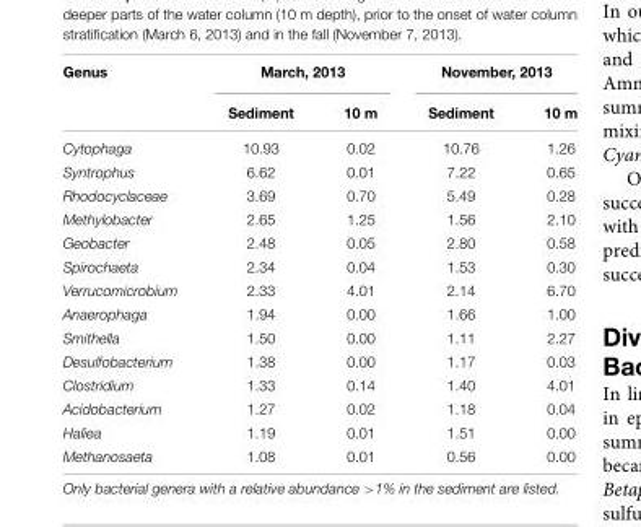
<table><thead><tr><td rowspan="2">Genus</td><td colspan="2">March, 2013</td><td colspan="2">November, 2013</td></tr><tr><td>Sediment</td><td>10 m</td><td>Sediment</td><td>10 m</td></tr></thead><tbody><tr><td>Cytophaga</td><td>10.93</td><td>0.02</td><td>10.76</td><td>1.26</td></tr><tr><td>Syntrophus</td><td>6.62</td><td>0.01</td><td>7.22</td><td>0.65</td></tr><tr><td>Rhodocyclaceae</td><td>3.69</td><td>0.70</td><td>5.49</td><td>0.28</td></tr><tr><td>Methylobacter</td><td>2.65</td><td>1.25</td><td>1.56</td><td>2.10</td></tr><tr><td>Geobacter</td><td>2.48</td><td>0.05</td><td>2.80</td><td>0.58</td></tr><tr><td>Spirochaeta</td><td>2.34</td><td>0.04</td><td>1.53</td><td>0.30</td></tr><tr><td>Verrucomicrobium</td><td>2.33</td><td>4.01</td><td>2.14</td><td>6.70</td></tr><tr><td>Anaerophaga</td><td>1.94</td><td>0.00</td><td>1.66</td><td>1.00</td></tr><tr><td>Smithella</td><td>1.50</td><td>0.00</td><td>1.11</td><td>2.27</td></tr><tr><td>Desulfobacterium</td><td>1.38</td><td>0.00</td><td>1.17</td><td>0.03</td></tr><tr><td>Clostridium</td><td>1.33</td><td>0.14</td><td>1.40</td><td>4.01</td></tr><tr><td>Acidobacterium</td><td>1.27</td><td>0.02</td><td>1.18</td><td>0.04</td></tr><tr><td>Haliea</td><td>1.19</td><td>0.01</td><td>1.51</td><td>0.00</td></tr><tr><td>Methanosaeta</td><td>1.08</td><td>0.01</td><td>0.56</td><td>0.00</td></tr></tbody></table>